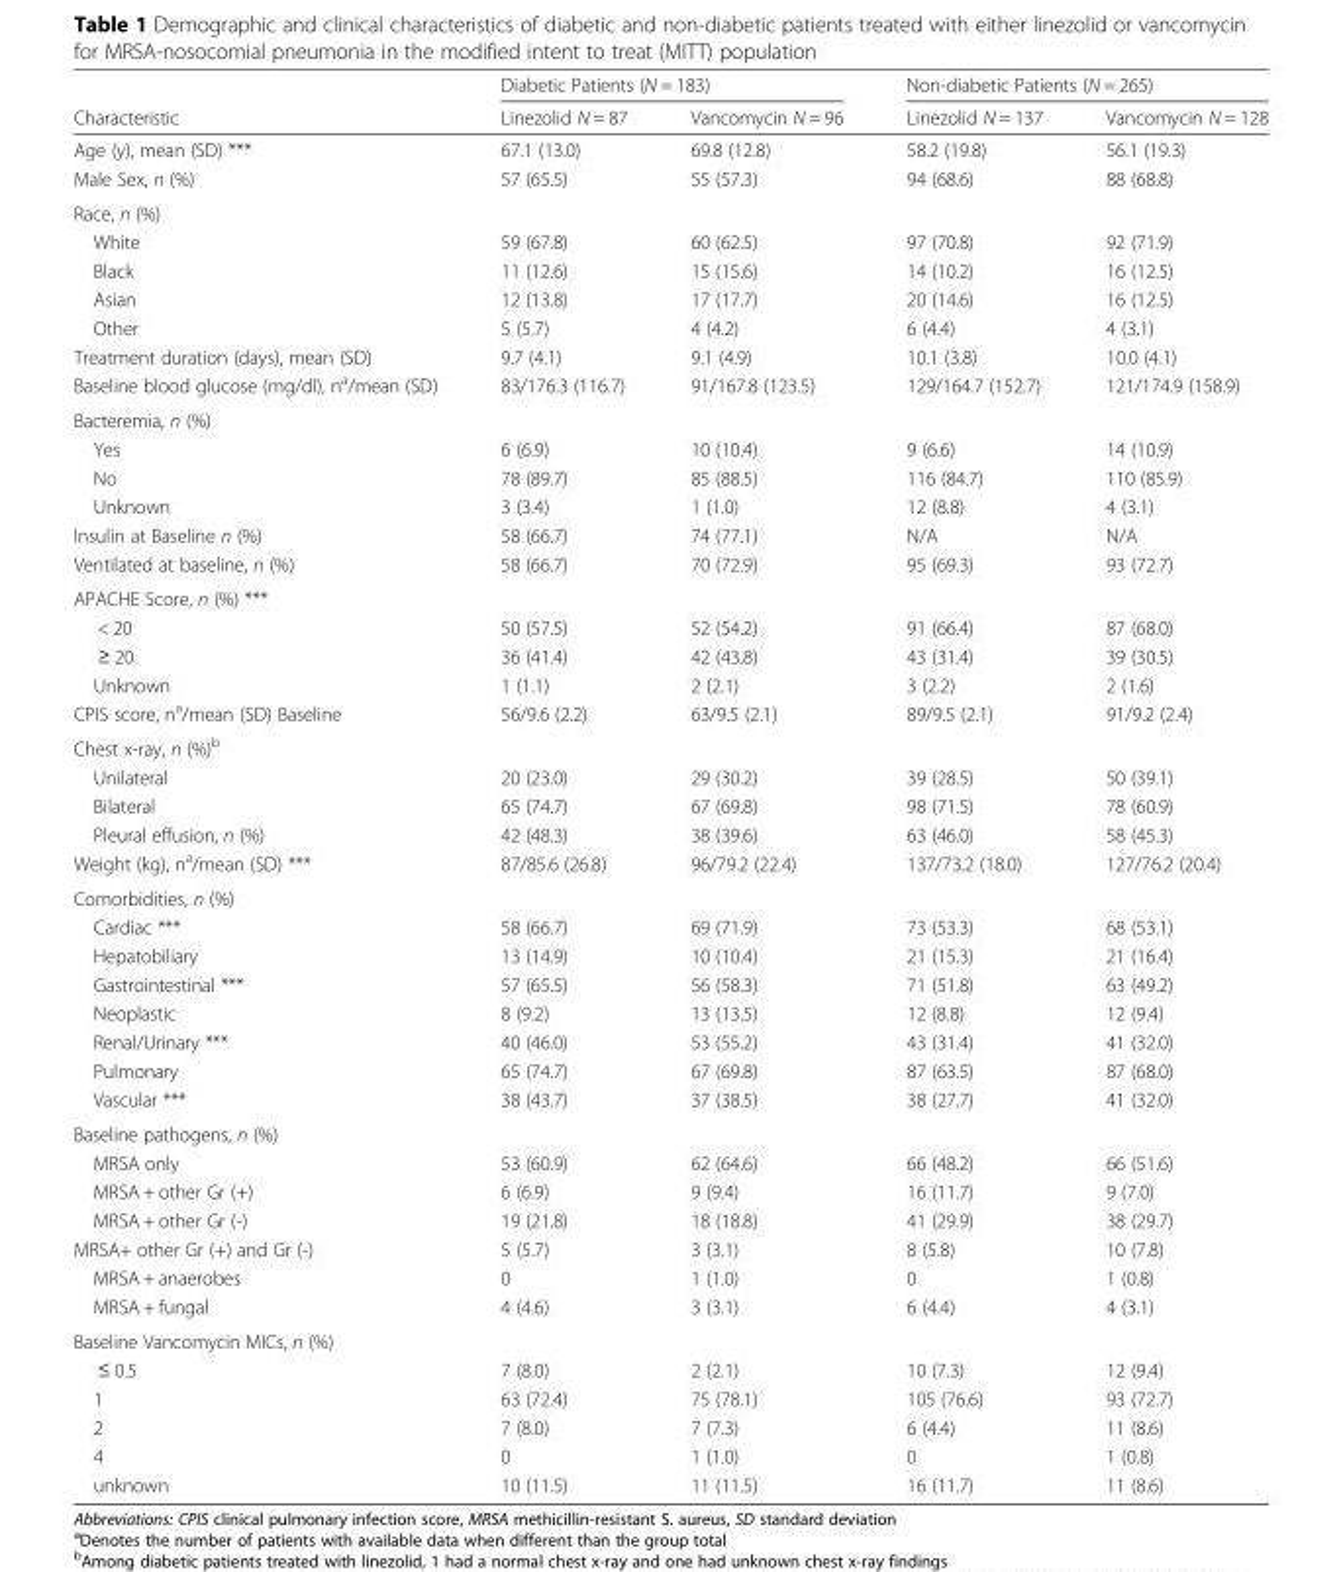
<table><thead><tr><td rowspan="2">Characteristic</td><td colspan="2">Diabetic Patients (N = 183)</td><td colspan="2">Non-diabetic Patients (N = 265)</td></tr><tr><td>Linezolid N = 87</td><td>Vancomycin N = 96</td><td>Linezolid N = 137</td><td>Vancomycin N = 128</td></tr></thead><tbody><tr><td>Age (y), mean (SD) ***</td><td>67.1 (13.0)</td><td>69.8 (12.8)</td><td>58.2 (19.8)</td><td>56.1 (19.3)</td></tr><tr><td>Male Sex, n (%)</td><td>57 (65.5)</td><td>55 (57.3)</td><td>94 (68.6)</td><td>88 (68.8)</td></tr><tr><td colspan="5">Race, n (%)</td></tr><tr><td>White</td><td>59 (67.8)</td><td>60 (62.5)</td><td>97 (70.8)</td><td>92 (71.9)</td></tr><tr><td>Black</td><td>11 (12.6)</td><td>15 (15.6)</td><td>14 (10.2)</td><td>16 (12.5)</td></tr><tr><td>Asian</td><td>12 (13.8)</td><td>17 (17.7)</td><td>20 (14.6)</td><td>16 (12.5)</td></tr><tr><td>Other</td><td>5 (5.7)</td><td>4 (4.2)</td><td>6 (4.4)</td><td>4 (3.1)</td></tr><tr><td>Treatment duration (days), mean (SD)</td><td>9.7 (4.1)</td><td>9.1 (4.9)</td><td>10.1 (3.8)</td><td>10.0 (4.1)</td></tr><tr><td>Baseline blood glucose (mg/dl), n<sup>a</sup>/mean (SD)</td><td>83/176.3 (116.7)</td><td>91/167.8 (123.5)</td><td>129/164.7 (152.7)</td><td>121/174.9 (158.9)</td></tr><tr><td colspan="5">Bacteremia, n (%)</td></tr><tr><td>Yes</td><td>6 (6.9)</td><td>10 (10.4)</td><td>9 (6.6)</td><td>14 (10.9)</td></tr><tr><td>No</td><td>78 (89.7)</td><td>85 (88.5)</td><td>116 (84.7)</td><td>110 (85.9)</td></tr><tr><td>Unknown</td><td>3 (3.4)</td><td>1 (1.0)</td><td>12 (8.8)</td><td>4 (3.1)</td></tr><tr><td>Insulin at Baseline n (%)</td><td>58 (66.7)</td><td>74 (77.1)</td><td>N/A</td><td>N/A</td></tr><tr><td>Ventilated at baseline, n (%)</td><td>58 (66.7)</td><td>70 (72.9)</td><td>95 (69.3)</td><td>93 (72.7)</td></tr><tr><td colspan="5">APACHE Score, n (%) ***</td></tr><tr><td>&lt; 20</td><td>50 (57.5)</td><td>52 (54.2)</td><td>91 (66.4)</td><td>87 (68.0)</td></tr><tr><td>≥ 20</td><td>36 (41.4)</td><td>42 (43.8)</td><td>43 (31.4)</td><td>39 (30.5)</td></tr><tr><td>Unknown</td><td>1 (1.1)</td><td>2 (2.1)</td><td>3 (2.2)</td><td>2 (1.6)</td></tr><tr><td>CPIS score, n<sup>a</sup>/mean (SD) Baseline</td><td>56/9.6 (2.2)</td><td>63/9.5 (2.1)</td><td>89/9.5 (2.1)</td><td>91/9.2 (2.4)</td></tr><tr><td colspan="5">Chest x-ray, n (%)<sup>b</sup></td></tr><tr><td>Unilateral</td><td>20 (23.0)</td><td>29 (30.2)</td><td>39 (28.5)</td><td>50 (39.1)</td></tr><tr><td>Bilateral</td><td>65 (74.7)</td><td>67 (69.8)</td><td>98 (71.5)</td><td>78 (60.9)</td></tr><tr><td>Pleural effusion, n (%)</td><td>42 (48.3)</td><td>38 (39.6)</td><td>63 (46.0)</td><td>58 (45.3)</td></tr><tr><td>Weight (kg), n<sup>a</sup>/mean (SD) ***</td><td>87/85.6 (26.8)</td><td>96/79.2 (22.4)</td><td>137/73.2 (18.0)</td><td>127/76.2 (20.4)</td></tr><tr><td colspan="5">Comorbidities, n (%)</td></tr><tr><td>Cardiac ***</td><td>58 (66.7)</td><td>69 (71.9)</td><td>73 (53.3)</td><td>68 (53.1)</td></tr><tr><td>Hepatobiliary</td><td>13 (14.9)</td><td>10 (10.4)</td><td>21 (15.3)</td><td>21 (16.4)</td></tr><tr><td>Gastrointestinal ***</td><td>57 (65.5)</td><td>56 (58.3)</td><td>71 (51.8)</td><td>63 (49.2)</td></tr><tr><td>Neoplastic</td><td>8 (9.2)</td><td>13 (13.5)</td><td>12 (8.8)</td><td>12 (9.4)</td></tr><tr><td>Renal/Urinary ***</td><td>40 (46.0)</td><td>53 (55.2)</td><td>43 (31.4)</td><td>41 (32.0)</td></tr><tr><td>Pulmonary</td><td>65 (74.7)</td><td>67 (69.8)</td><td>87 (63.5)</td><td>87 (68.0)</td></tr><tr><td>Vascular ***</td><td>38 (43.7)</td><td>37 (38.5)</td><td>38 (27.7)</td><td>41 (32.0)</td></tr><tr><td colspan="5">Baseline pathogens, n (%)</td></tr><tr><td>MRSA only</td><td>53 (60.9)</td><td>62 (64.6)</td><td>66 (48.2)</td><td>66 (51.6)</td></tr><tr><td>MRSA + other Gr (+)</td><td>6 (6.9)</td><td>9 (9.4)</td><td>16 (11.7)</td><td>9 (7.0)</td></tr><tr><td>MRSA + other Gr (-)</td><td>19 (21.8)</td><td>18 (18.8)</td><td>41 (29.9)</td><td>38 (29.7)</td></tr><tr><td>MRSA+ other Gr (+) and Gr (-)</td><td>5 (5.7)</td><td>3 (3.1)</td><td>8 (5.8)</td><td>10 (7.8)</td></tr><tr><td>MRSA + anaerobes</td><td>0</td><td>1 (1.0)</td><td>0</td><td>1 (0.8)</td></tr><tr><td>MRSA + fungal</td><td>4 (4.6)</td><td>3 (3.1)</td><td>6 (4.4)</td><td>4 (3.1)</td></tr><tr><td colspan="5">Baseline Vancomycin MICs, n (%)</td></tr><tr><td>≤ 0.5</td><td>7 (8.0)</td><td>2 (2.1)</td><td>10 (7.3)</td><td>12 (9.4)</td></tr><tr><td>1</td><td>63 (72.4)</td><td>75 (78.1)</td><td>105 (76.6)</td><td>93 (72.7)</td></tr><tr><td>2</td><td>7 (8.0)</td><td>7 (7.3)</td><td>6 (4.4)</td><td>11 (8.6)</td></tr><tr><td>4</td><td>0</td><td>1 (1.0)</td><td>0</td><td>1 (0.8)</td></tr><tr><td>unknown</td><td>10 (11.5)</td><td>11 (11.5)</td><td>16 (11.7)</td><td>11 (8.6)</td></tr></tbody></table>